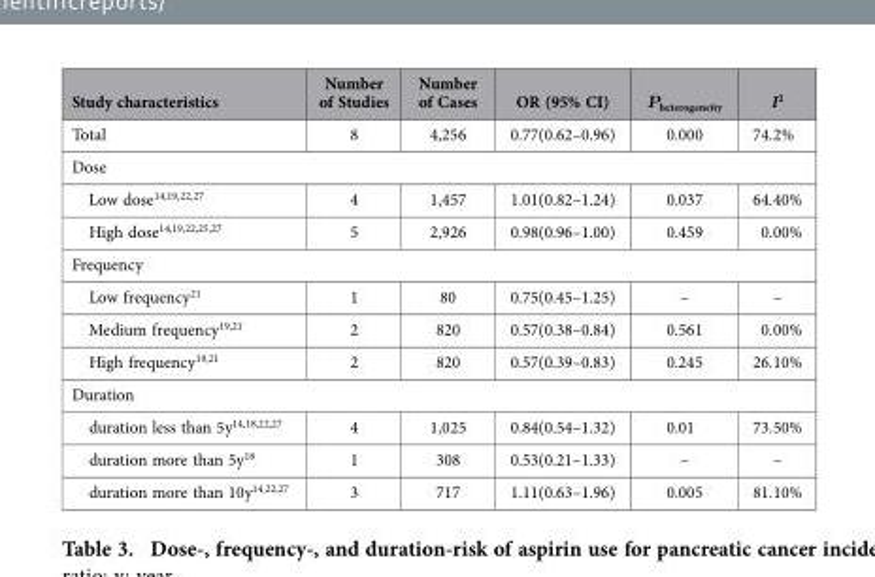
<table><thead><tr><td>Study characteristics</td><td>Number of Studies</td><td>Number of Cases</td><td>OR (95% CI)</td><td>Ρ<sub>heterogeneity</sub></td><td>I<sup>2</sup></td></tr></thead><tbody><tr><td>Total</td><td>8</td><td>4,256</td><td>0.77(0.62–0.96)</td><td>0.000</td><td>74.2%</td></tr><tr><td colspan="6">Dose</td></tr><tr><td>Low dose<sup>14</sup>,<sup>19</sup>,<sup>22</sup>,<sup>27</sup></td><td>4</td><td>1,457</td><td>1.01(0.82–1.24)</td><td>0.037</td><td>64.40%</td></tr><tr><td>High dose<sup>14</sup>,<sup>19</sup>,<sup>22</sup>,<sup>25</sup>,<sup>27</sup></td><td>5</td><td>2,926</td><td>0.98(0.96–1.00)</td><td>0.459</td><td>0.00%</td></tr><tr><td colspan="6">Frequency</td></tr><tr><td>Low frequency<sup>21</sup></td><td>1</td><td>80</td><td>0.75(0.45–1.25)</td><td>–</td><td>–</td></tr><tr><td>Medium frequency<sup>19</sup>,<sup>21</sup></td><td>2</td><td>820</td><td>0.57(0.38–0.84)</td><td>0.561</td><td>0.00%</td></tr><tr><td>High frequency<sup>19</sup>,<sup>21</sup></td><td>2</td><td>820</td><td>0.57(0.39–0.83)</td><td>0.245</td><td>26.10%</td></tr><tr><td colspan="6">Duration</td></tr><tr><td>duration less than 5y<sup>14</sup>,<sup>18</sup>,<sup>22</sup>,<sup>27</sup></td><td>4</td><td>1,025</td><td>0.84(0.54–1.32)</td><td>0.01</td><td>73.50%</td></tr><tr><td>duration more than 5y<sup>18</sup></td><td>1</td><td>308</td><td>0.53(0.21–1.33)</td><td>–</td><td>–</td></tr><tr><td>duration more than 10y<sup>14</sup>,<sup>22</sup>,<sup>27</sup></td><td>3</td><td>717</td><td>1.11(0.63–1.96)</td><td>0.005</td><td>81.10%</td></tr></tbody></table>